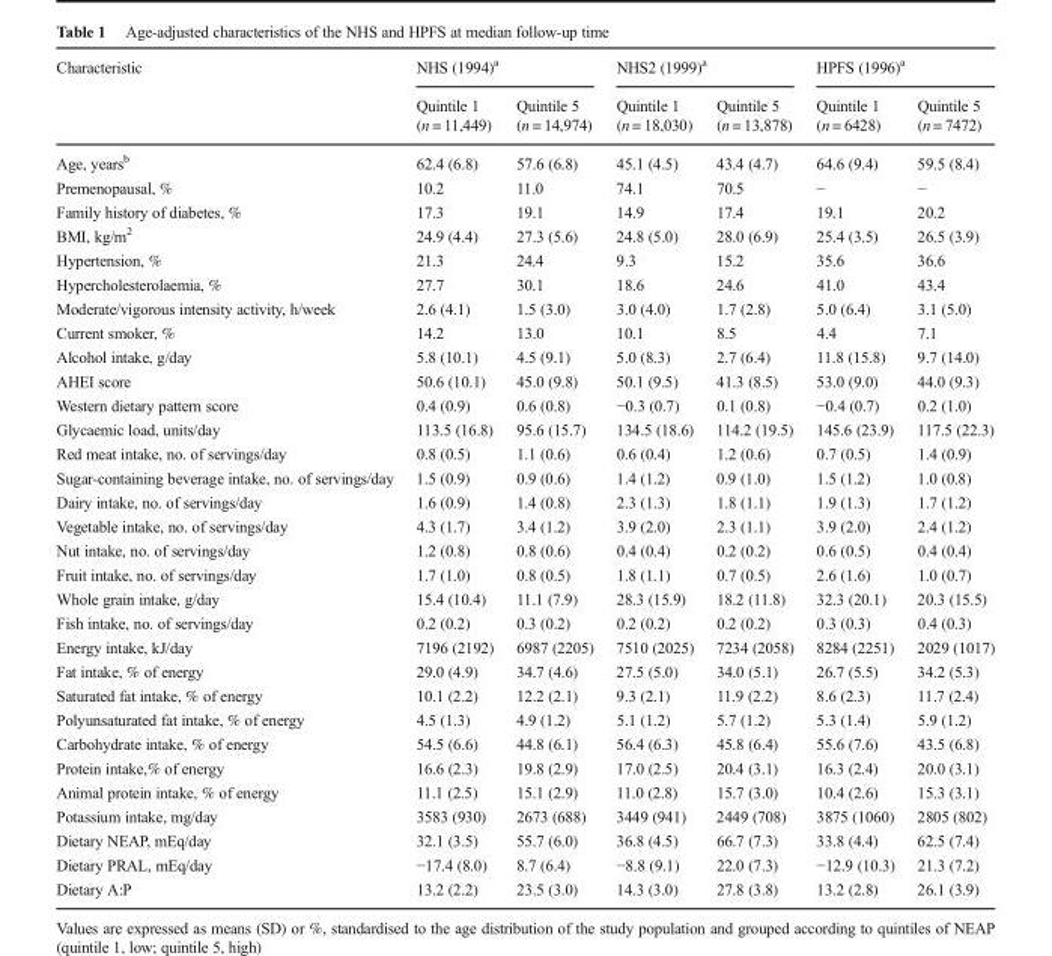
<table><thead><tr><td rowspan="2">Characteristic</td><td colspan="2">NHS (1994)<sup>a</sup></td><td colspan="2">NHS2 (1999)<sup>a</sup></td><td colspan="2">HPFS (1996)<sup>a</sup></td></tr><tr><td>Quintile 1 (n = 11,449)</td><td>Quintile 5 (n = 14,974)</td><td>Quintile 1 (n = 18,030)</td><td>Quintile 5 (n = 13,878)</td><td>Quintile 1 (n = 6428)</td><td>Quintile 5 (n = 7472)</td></tr></thead><tbody><tr><td>Age, years<sup>b</sup></td><td>62.4 (6.8)</td><td>57.6 (6.8)</td><td>45.1 (4.5)</td><td>43.4 (4.7)</td><td>64.6 (9.4)</td><td>59.5 (8.4)</td></tr><tr><td>Premenopausal, %</td><td>10.2</td><td>11.0</td><td>74.1</td><td>70.5</td><td>−</td><td>−</td></tr><tr><td>Family history of diabetes, %</td><td>17.3</td><td>19.1</td><td>14.9</td><td>17.4</td><td>19.1</td><td>20.2</td></tr><tr><td>BMI, kg/m<sup>2</sup></td><td>24.9 (4.4)</td><td>27.3 (5.6)</td><td>24.8 (5.0)</td><td>28.0 (6.9)</td><td>25.4 (3.5)</td><td>26.5 (3.9)</td></tr><tr><td>Hypertension, %</td><td>21.3</td><td>24.4</td><td>9.3</td><td>15.2</td><td>35.6</td><td>36.6</td></tr><tr><td>Hypercholesterolaemia, %</td><td>27.7</td><td>30.1</td><td>18.6</td><td>24.6</td><td>41.0</td><td>43.4</td></tr><tr><td>Moderate/vigorous intensity activity, h/week</td><td>2.6 (4.1)</td><td>1.5 (3.0)</td><td>3.0 (4.0)</td><td>1.7 (2.8)</td><td>5.0 (6.4)</td><td>3.1 (5.0)</td></tr><tr><td>Current smoker, %</td><td>14.2</td><td>13.0</td><td>10.1</td><td>8.5</td><td>4.4</td><td>7.1</td></tr><tr><td>Alcohol intake, g/day</td><td>5.8 (10.1)</td><td>4.5 (9.1)</td><td>5.0 (8.3)</td><td>2.7 (6.4)</td><td>11.8 (15.8)</td><td>9.7 (14.0)</td></tr><tr><td>AHEI score</td><td>50.6 (10.1)</td><td>45.0 (9.8)</td><td>50.1 (9.5)</td><td>41.3 (8.5)</td><td>53.0 (9.0)</td><td>44.0 (9.3)</td></tr><tr><td>Western dietary pattern score</td><td>0.4 (0.9)</td><td>0.6 (0.8)</td><td>−0.3 (0.7)</td><td>0.1 (0.8)</td><td>−0.4 (0.7)</td><td>0.2 (1.0)</td></tr><tr><td>Glycaemic load, units/day</td><td>113.5 (16.8)</td><td>95.6 (15.7)</td><td>134.5 (18.6)</td><td>114.2 (19.5)</td><td>145.6 (23.9)</td><td>117.5 (22.3)</td></tr><tr><td>Red meat intake, no. of servings/day</td><td>0.8 (0.5)</td><td>1.1 (0.6)</td><td>0.6 (0.4)</td><td>1.2 (0.6)</td><td>0.7 (0.5)</td><td>1.4 (0.9)</td></tr><tr><td>Sugar-containing beverage intake, no. of servings/day</td><td>1.5 (0.9)</td><td>0.9 (0.6)</td><td>1.4 (1.2)</td><td>0.9 (1.0)</td><td>1.5 (1.2)</td><td>1.0 (0.8)</td></tr><tr><td>Dairy intake, no. of servings/day</td><td>1.6 (0.9)</td><td>1.4 (0.8)</td><td>2.3 (1.3)</td><td>1.8 (1.1)</td><td>1.9 (1.3)</td><td>1.7 (1.2)</td></tr><tr><td>Vegetable intake, no. of servings/day</td><td>4.3 (1.7)</td><td>3.4 (1.2)</td><td>3.9 (2.0)</td><td>2.3 (1.1)</td><td>3.9 (2.0)</td><td>2.4 (1.2)</td></tr><tr><td>Nut intake, no. of servings/day</td><td>1.2 (0.8)</td><td>0.8 (0.6)</td><td>0.4 (0.4)</td><td>0.2 (0.2)</td><td>0.6 (0.5)</td><td>0.4 (0.4)</td></tr><tr><td>Fruit intake, no. of servings/day</td><td>1.7 (1.0)</td><td>0.8 (0.5)</td><td>1.8 (1.1)</td><td>0.7 (0.5)</td><td>2.6 (1.6)</td><td>1.0 (0.7)</td></tr><tr><td>Whole grain intake, g/day</td><td>15.4 (10.4)</td><td>11.1 (7.9)</td><td>28.3 (15.9)</td><td>18.2 (11.8)</td><td>32.3 (20.1)</td><td>20.3 (15.5)</td></tr><tr><td>Fish intake, no. of servings/day</td><td>0.2 (0.2)</td><td>0.3 (0.2)</td><td>0.2 (0.2)</td><td>0.2 (0.2)</td><td>0.3 (0.3)</td><td>0.4 (0.3)</td></tr><tr><td>Energy intake, kJ/day</td><td>7196 (2192)</td><td>6987 (2205)</td><td>7510 (2025)</td><td>7234 (2058)</td><td>8284 (2251)</td><td>2029 (1017)</td></tr><tr><td>Fat intake, % of energy</td><td>29.0 (4.9)</td><td>34.7 (4.6)</td><td>27.5 (5.0)</td><td>34.0 (5.1)</td><td>26.7 (5.5)</td><td>34.2 (5.3)</td></tr><tr><td>Saturated fat intake, % of energy</td><td>10.1 (2.2)</td><td>12.2 (2.1)</td><td>9.3 (2.1)</td><td>11.9 (2.2)</td><td>8.6 (2.3)</td><td>11.7 (2.4)</td></tr><tr><td>Polyunsaturated fat intake, % of energy</td><td>4.5 (1.3)</td><td>4.9 (1.2)</td><td>5.1 (1.2)</td><td>5.7 (1.2)</td><td>5.3 (1.4)</td><td>5.9 (1.2)</td></tr><tr><td>Carbohydrate intake, % of energy</td><td>54.5 (6.6)</td><td>44.8 (6.1)</td><td>56.4 (6.3)</td><td>45.8 (6.4)</td><td>55.6 (7.6)</td><td>43.5 (6.8)</td></tr><tr><td>Protein intake,% of energy</td><td>16.6 (2.3)</td><td>19.8 (2.9)</td><td>17.0 (2.5)</td><td>20.4 (3.1)</td><td>16.3 (2.4)</td><td>20.0 (3.1)</td></tr><tr><td>Animal protein intake, % of energy</td><td>11.1 (2.5)</td><td>15.1 (2.9)</td><td>11.0 (2.8)</td><td>15.7 (3.0)</td><td>10.4 (2.6)</td><td>15.3 (3.1)</td></tr><tr><td>Potassium intake, mg/day</td><td>3583 (930)</td><td>2673 (688)</td><td>3449 (941)</td><td>2449 (708)</td><td>3875 (1060)</td><td>2805 (802)</td></tr><tr><td>Dietary NEAP, mEq/day</td><td>32.1 (3.5)</td><td>55.7 (6.0)</td><td>36.8 (4.5)</td><td>66.7 (7.3)</td><td>33.8 (4.4)</td><td>62.5 (7.4)</td></tr><tr><td>Dietary PRAL, mEq/day</td><td>−17.4 (8.0)</td><td>8.7 (6.4)</td><td>−8.8 (9.1)</td><td>22.0 (7.3)</td><td>−12.9 (10.3)</td><td>21.3 (7.2)</td></tr><tr><td>Dietary A:P</td><td>13.2 (2.2)</td><td>23.5 (3.0)</td><td>14.3 (3.0)</td><td>27.8 (3.8)</td><td>13.2 (2.8)</td><td>26.1 (3.9)</td></tr></tbody></table>